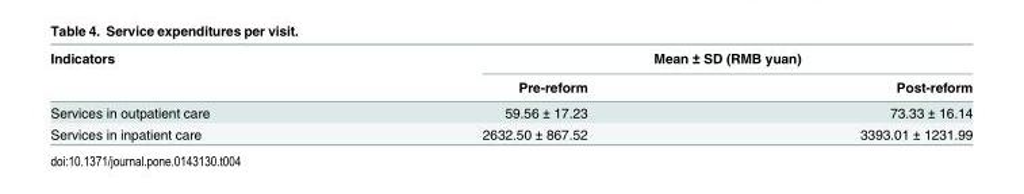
<table><thead><tr><td rowspan="2">Indicators</td><td colspan="2">Mean ± SD (RMB yuan)</td></tr><tr><td>Pre-reform</td><td>Post-reform</td></tr></thead><tbody><tr><td>Services in outpatient care</td><td>59.56 ± 17.23</td><td>73.33 ± 16.14</td></tr><tr><td>Services in inpatient care</td><td>2632.50 ± 867.52</td><td>3393.01 ± 1231.99</td></tr></tbody></table>